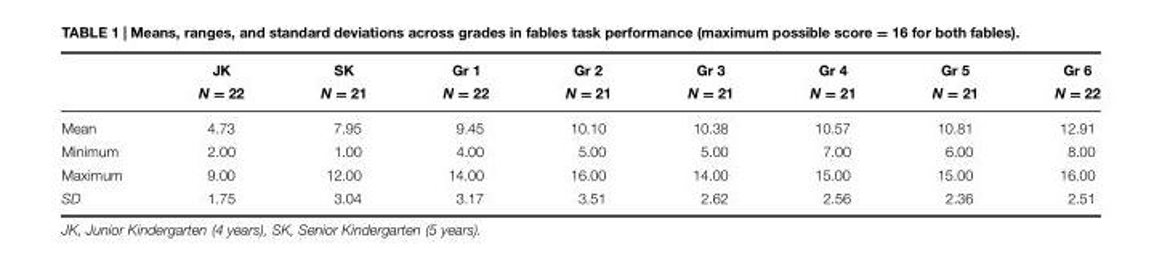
<table><thead><tr><td rowspan="2"></td><td rowspan="2">JK N = 22</td><td rowspan="2">SK N = 21</td><td rowspan="2">Gr 1 N = 22</td><td rowspan="2">Gr 2 N = 21</td><td rowspan="2">Gr 3 N = 21</td><td rowspan="2">Gr 4 N = 21</td><td rowspan="2">Gr 5 N = 21</td><td rowspan="2">Gr 6 N = 22</td></tr><tr></tr></thead><tbody><tr><td>Mean</td><td>4.73</td><td>7.95</td><td>9.45</td><td>10.10</td><td>10.38</td><td>10.57</td><td>10.81</td><td>12.91</td></tr><tr><td>Minimum</td><td>2.00</td><td>1.00</td><td>4.00</td><td>5.00</td><td>5.00</td><td>7.00</td><td>6.00</td><td>8.00</td></tr><tr><td>Maximum</td><td>9.00</td><td>12.00</td><td>14.00</td><td>16.00</td><td>14.00</td><td>15.00</td><td>15.00</td><td>16.00</td></tr><tr><td>SD</td><td>1.75</td><td>3.04</td><td>3.17</td><td>3.51</td><td>2.62</td><td>2.56</td><td>2.36</td><td>2.51</td></tr></tbody></table>